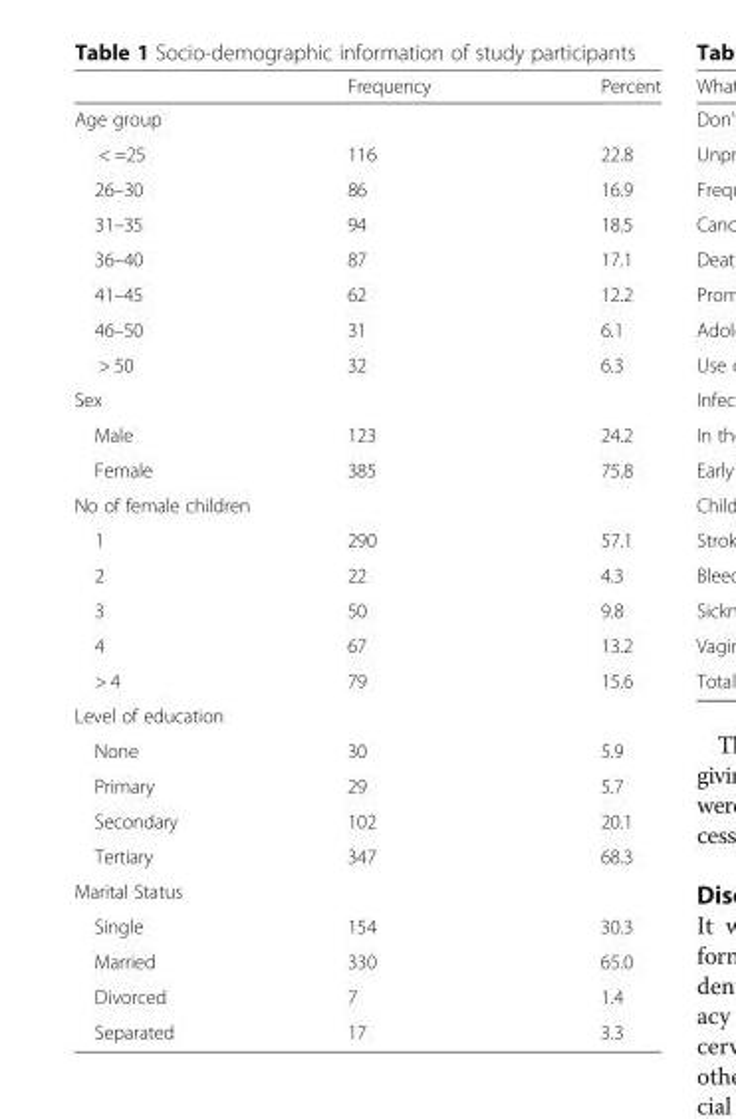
<table><thead><tr><td></td><td>Frequency</td><td>Percent</td></tr></thead><tbody><tr><td colspan="3">Age group</td></tr><tr><td>&lt; =25</td><td>116</td><td>22.8</td></tr><tr><td>26–30</td><td>86</td><td>16.9</td></tr><tr><td>31–35</td><td>94</td><td>18.5</td></tr><tr><td>36–40</td><td>87</td><td>17.1</td></tr><tr><td>41–45</td><td>62</td><td>12.2</td></tr><tr><td>46–50</td><td>31</td><td>6.1</td></tr><tr><td>&gt; 50</td><td>32</td><td>6.3</td></tr><tr><td colspan="3">Sex</td></tr><tr><td>Male</td><td>123</td><td>24.2</td></tr><tr><td>Female</td><td>385</td><td>75.8</td></tr><tr><td colspan="3">No of female children</td></tr><tr><td>1</td><td>290</td><td>57.1</td></tr><tr><td>2</td><td>22</td><td>4.3</td></tr><tr><td>3</td><td>50</td><td>9.8</td></tr><tr><td>4</td><td>67</td><td>13.2</td></tr><tr><td>&gt; 4</td><td>79</td><td>15.6</td></tr><tr><td colspan="3">Level of education</td></tr><tr><td>None</td><td>30</td><td>5.9</td></tr><tr><td>Primary</td><td>29</td><td>5.7</td></tr><tr><td>Secondary</td><td>102</td><td>20.1</td></tr><tr><td>Tertiary</td><td>347</td><td>68.3</td></tr><tr><td colspan="3">Marital Status</td></tr><tr><td>Single</td><td>154</td><td>30.3</td></tr><tr><td>Married</td><td>330</td><td>65.0</td></tr><tr><td>Divorced</td><td>7</td><td>1.4</td></tr><tr><td>Separated</td><td>17</td><td>3.3</td></tr></tbody></table>